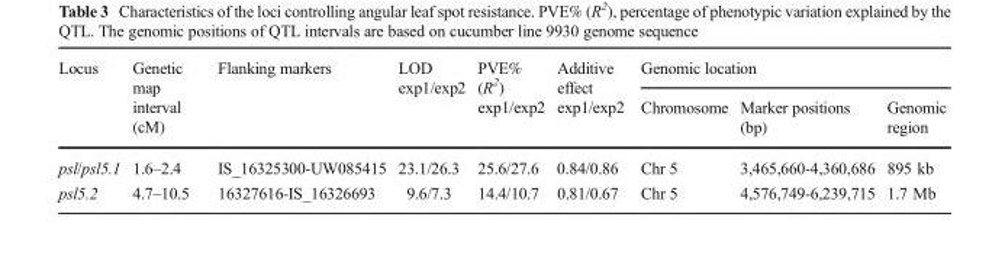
<table><thead><tr><td rowspan="2">Locus</td><td rowspan="2">Genetic map interval (cM)</td><td rowspan="2">Flanking markers</td><td rowspan="2">LOD exp1/exp2</td><td rowspan="2">PVE% (R<sup>2</sup>) exp1/exp2</td><td rowspan="2">Additive effect exp1/exp2</td><td colspan="3">Genomic location</td></tr><tr><td>Chromosome</td><td>Marker positions (bp)</td><td>Genomic region</td></tr></thead><tbody><tr><td>psl/psl5.1</td><td>1.6–2.4</td><td>IS_16325300-UW085415</td><td>23.1/26.3</td><td>25.6/27.6</td><td>0.84/0.86</td><td>Chr 5</td><td>3,465,660-4,360,686</td><td>895 kb</td></tr><tr><td>psl5.2</td><td>4.7–10.5</td><td>16327616-IS_16326693</td><td>9.6/7.3</td><td>14.4/10.7</td><td>0.81/0.67</td><td>Chr 5</td><td>4,576,749-6,239,715</td><td>1.7 Mb</td></tr></tbody></table>